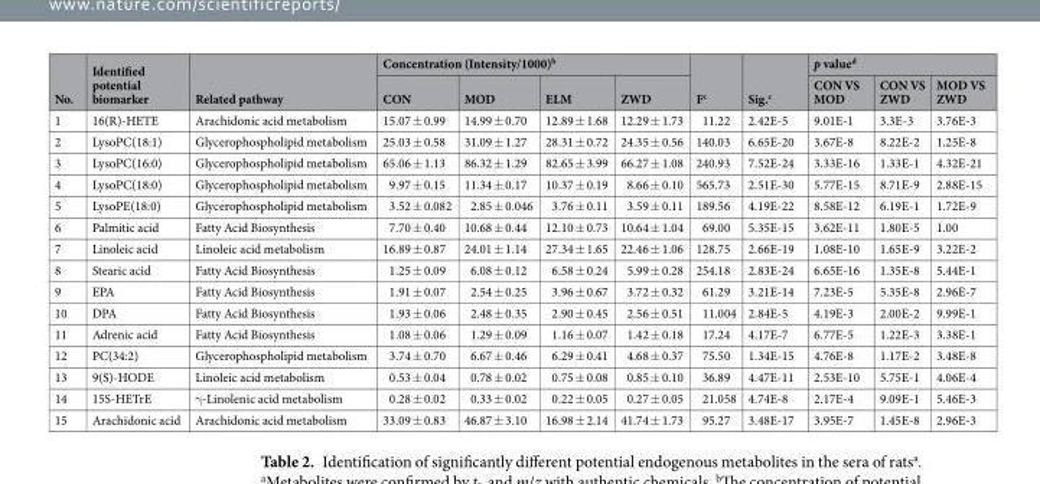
<table><thead><tr><td rowspan="2">No.</td><td rowspan="2">Identified potential biomarker</td><td rowspan="2">Related pathway</td><td colspan="4">Concentration (Intensity/1000)<sup>b</sup></td><td rowspan="2">F<sup>c</sup></td><td rowspan="2">Sig.<sup>c</sup></td><td colspan="3">p value<sup>d</sup></td></tr><tr><td>CON</td><td>MOD</td><td>ELM</td><td>ZWD</td><td>CON VS MOD</td><td>CON VS ZWD</td><td>MOD VS ZWD</td></tr></thead><tbody><tr><td>1</td><td>16(R)-HETE</td><td>Arachidonic acid metabolism</td><td>15.07 ± 0.99</td><td>14.99 ± 0.70</td><td>12.89 ± 1.68</td><td>12.29 ± 1.73</td><td>11.22</td><td>2.42E-5</td><td>9.01E-1</td><td>3.3E-3</td><td>3.76E-3</td></tr><tr><td>2</td><td>LysoPC(18:1)</td><td>Glycerophospholipid metabolism</td><td>25.03 ± 0.58</td><td>31.09 ± 1.27</td><td>28.31 ± 0.72</td><td>24.35 ± 0.56</td><td>140.03</td><td>6.65E-20</td><td>3.67E-8</td><td>8.22E-2</td><td>1.25E-8</td></tr><tr><td>3</td><td>LysoPC(16:0)</td><td>Glycerophospholipid metabolism</td><td>65.06 ± 1.13</td><td>86.32 ± 1.29</td><td>82.65 ± 3.99</td><td>66.27 ± 1.08</td><td>240.93</td><td>7.52E-24</td><td>3.33E-16</td><td>1.33E-1</td><td>4.32E-21</td></tr><tr><td>4</td><td>LysoPC(18:0)</td><td>Glycerophospholipid metabolism</td><td>9.97 ± 0.15</td><td>11.34 ± 0.17</td><td>10.37 ± 0.19</td><td>8.66 ± 0.10</td><td>565.73</td><td>2.51E-30</td><td>5.77E-15</td><td>8.71E-9</td><td>2.88E-15</td></tr><tr><td>5</td><td>LysoPE(18:0)</td><td>Glycerophospholipid metabolism</td><td>3.52 ± 0.082</td><td>2.85 ± 0.046</td><td>3.76 ± 0.11</td><td>3.59 ± 0.11</td><td>189.56</td><td>4.19E-22</td><td>8.58E-12</td><td>6.19E-1</td><td>1.72E-9</td></tr><tr><td>6</td><td>Palmitic acid</td><td>Fatty Acid Biosynthesis</td><td>7.70 ± 0.40</td><td>10.68 ± 0.44</td><td>12.10 ± 0.73</td><td>10.64 ± 1.04</td><td>69.00</td><td>5.35E-15</td><td>3.62E-11</td><td>1.80E-5</td><td>1.00</td></tr><tr><td>7</td><td>Linoleic acid</td><td>Linoleic acid metabolism</td><td>16.89 ± 0.87</td><td>24.01 ± 1.14</td><td>27.34 ± 1.65</td><td>22.46 ± 1.06</td><td>128.75</td><td>2.66E-19</td><td>1.08E-10</td><td>1.65E-9</td><td>3.22E-2</td></tr><tr><td>8</td><td>Stearic acid</td><td>Fatty Acid Biosynthesis</td><td>1.25 ± 0.09</td><td>6.08 ± 0.12</td><td>6.58 ± 0.24</td><td>5.99 ± 0.28</td><td>254.18</td><td>2.83E-24</td><td>6.65E-16</td><td>1.35E-8</td><td>5.44E-1</td></tr><tr><td>9</td><td>EPA</td><td>Fatty Acid Biosynthesis</td><td>1.91 ± 0.07</td><td>2.54 ± 0.25</td><td>3.96 ± 0.67</td><td>3.72 ± 0.32</td><td>61.29</td><td>3.21E-14</td><td>7.23E-5</td><td>5.35E-8</td><td>2.96E-7</td></tr><tr><td>10</td><td>DPA</td><td>Fatty Acid Biosynthesis</td><td>1.93 ± 0.06</td><td>2.48 ± 0.35</td><td>2.90 ± 0.45</td><td>2.56 ± 0.51</td><td>11.004</td><td>2.84E-5</td><td>4.19E-3</td><td>2.00E-2</td><td>9.99E-1</td></tr><tr><td>11</td><td>Adrenic acid</td><td>Fatty Acid Biosynthesis</td><td>1.08 ± 0.06</td><td>1.29 ± 0.09</td><td>1.16 ± 0.07</td><td>1.42 ± 0.18</td><td>17.24</td><td>4.17E-7</td><td>6.77E-5</td><td>1.22E-3</td><td>3.38E-1</td></tr><tr><td>12</td><td>PC(34:2)</td><td>Glycerophospholipid metabolism</td><td>3.74 ± 0.70</td><td>6.67 ± 0.46</td><td>6.29 ± 0.41</td><td>4.68 ± 0.37</td><td>75.50</td><td>1.34E-15</td><td>4.76E-8</td><td>1.17E-2</td><td>3.48E-8</td></tr><tr><td>13</td><td>9(S)-HODE</td><td>Linoleic acid metabolism</td><td>0.53 ± 0.04</td><td>0.78 ± 0.02</td><td>0.75 ± 0.08</td><td>0.85 ± 0.10</td><td>36.89</td><td>4.47E-11</td><td>2.53E-10</td><td>5.75E-1</td><td>4.06E-4</td></tr><tr><td>14</td><td>15S-HETrE</td><td>γ-Linolenic acid metabolism</td><td>0.28 ± 0.02</td><td>0.33 ± 0.02</td><td>0.22 ± 0.05</td><td>0.27 ± 0.05</td><td>21.058</td><td>4.74E-8</td><td>2.17E-4</td><td>9.09E-1</td><td>5.46E-3</td></tr><tr><td>15</td><td>Arachidonic acid</td><td>Arachidonic acid metabolism</td><td>33.09 ± 0.83</td><td>46.87 ± 3.10</td><td>16.98 ± 2.14</td><td>41.74 ± 1.73</td><td>95.27</td><td>3.48E-17</td><td>3.95E-7</td><td>1.45E-8</td><td>2.96E-3</td></tr></tbody></table>